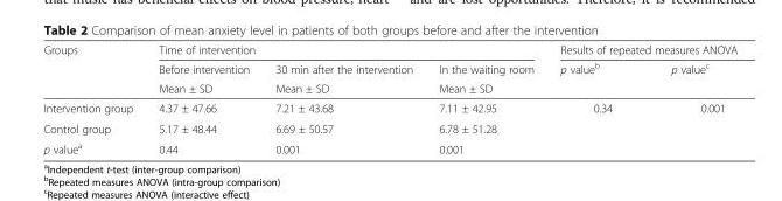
<table><thead><tr><td rowspan="3">Groups</td><td colspan="3">Time of intervention</td><td colspan="2">Results of repeated measures ANOVA</td></tr><tr><td rowspan="2">Before intervention Mean ± SD</td><td rowspan="2">30 min after the intervention Mean ± SD</td><td rowspan="2">In the waiting room Mean ± SD</td><td rowspan="2">p value<sup>b</sup></td><td rowspan="2">p value<sup>c</sup></td></tr><tr></tr></thead><tbody><tr><td>Intervention group</td><td>4.37 ± 47.66</td><td>7.21 ± 43.68</td><td>7.11 ± 42.95</td><td rowspan="3">0.34</td><td rowspan="3">0.001</td></tr><tr><td>Control group</td><td>5.17 ± 48.44</td><td>6.69 ± 50.57</td><td>6.78 ± 51.28</td></tr><tr><td>p value<sup>a</sup></td><td>0.44</td><td>0.001</td><td>0.001</td></tr></tbody></table>